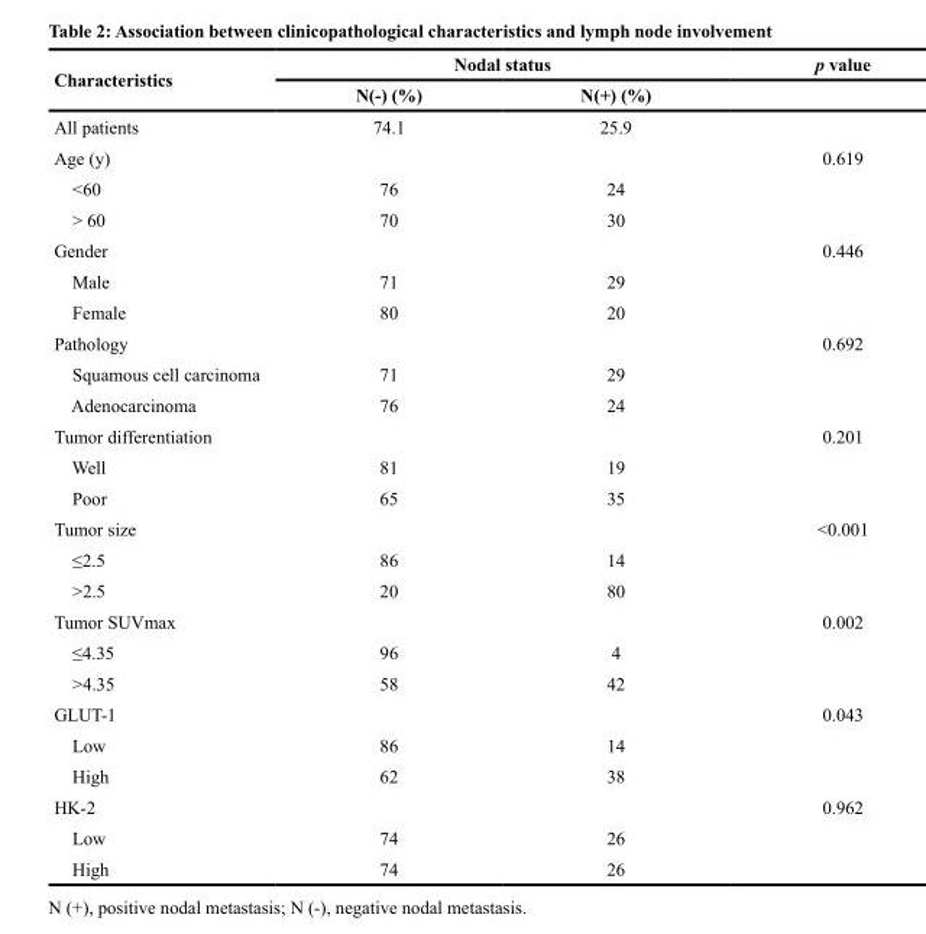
<table><thead><tr><td rowspan="2">Characteristics</td><td colspan="2">Nodal status</td><td rowspan="2">p value</td></tr><tr><td>N(-) (%)</td><td>N(+) (%)</td></tr></thead><tbody><tr><td>All patients</td><td>74.1</td><td>25.9</td><td></td></tr><tr><td>Age (y)</td><td></td><td></td><td>0.619</td></tr><tr><td>&lt;60</td><td>76</td><td>24</td><td></td></tr><tr><td>&gt; 60</td><td>70</td><td>30</td><td></td></tr><tr><td>Gender</td><td></td><td></td><td>0.446</td></tr><tr><td>Male</td><td>71</td><td>29</td><td></td></tr><tr><td>Female</td><td>80</td><td>20</td><td></td></tr><tr><td>Pathology</td><td></td><td></td><td>0.692</td></tr><tr><td>Squamous cell carcinoma</td><td>71</td><td>29</td><td></td></tr><tr><td>Adenocarcinoma</td><td>76</td><td>24</td><td></td></tr><tr><td>Tumor differentiation</td><td></td><td></td><td>0.201</td></tr><tr><td>Well</td><td>81</td><td>19</td><td></td></tr><tr><td>Poor</td><td>65</td><td>35</td><td></td></tr><tr><td>Tumor size</td><td></td><td></td><td>&lt;0.001</td></tr><tr><td>≤2.5</td><td>86</td><td>14</td><td></td></tr><tr><td>&gt;2.5</td><td>20</td><td>80</td><td></td></tr><tr><td>Tumor SUVmax</td><td></td><td></td><td>0.002</td></tr><tr><td>≤4.35</td><td>96</td><td>4</td><td></td></tr><tr><td>&gt;4.35</td><td>58</td><td>42</td><td></td></tr><tr><td>GLUT-1</td><td></td><td></td><td>0.043</td></tr><tr><td>Low</td><td>86</td><td>14</td><td></td></tr><tr><td>High</td><td>62</td><td>38</td><td></td></tr><tr><td>HK-2</td><td></td><td></td><td>0.962</td></tr><tr><td>Low</td><td>74</td><td>26</td><td></td></tr><tr><td>High</td><td>74</td><td>26</td><td></td></tr></tbody></table>